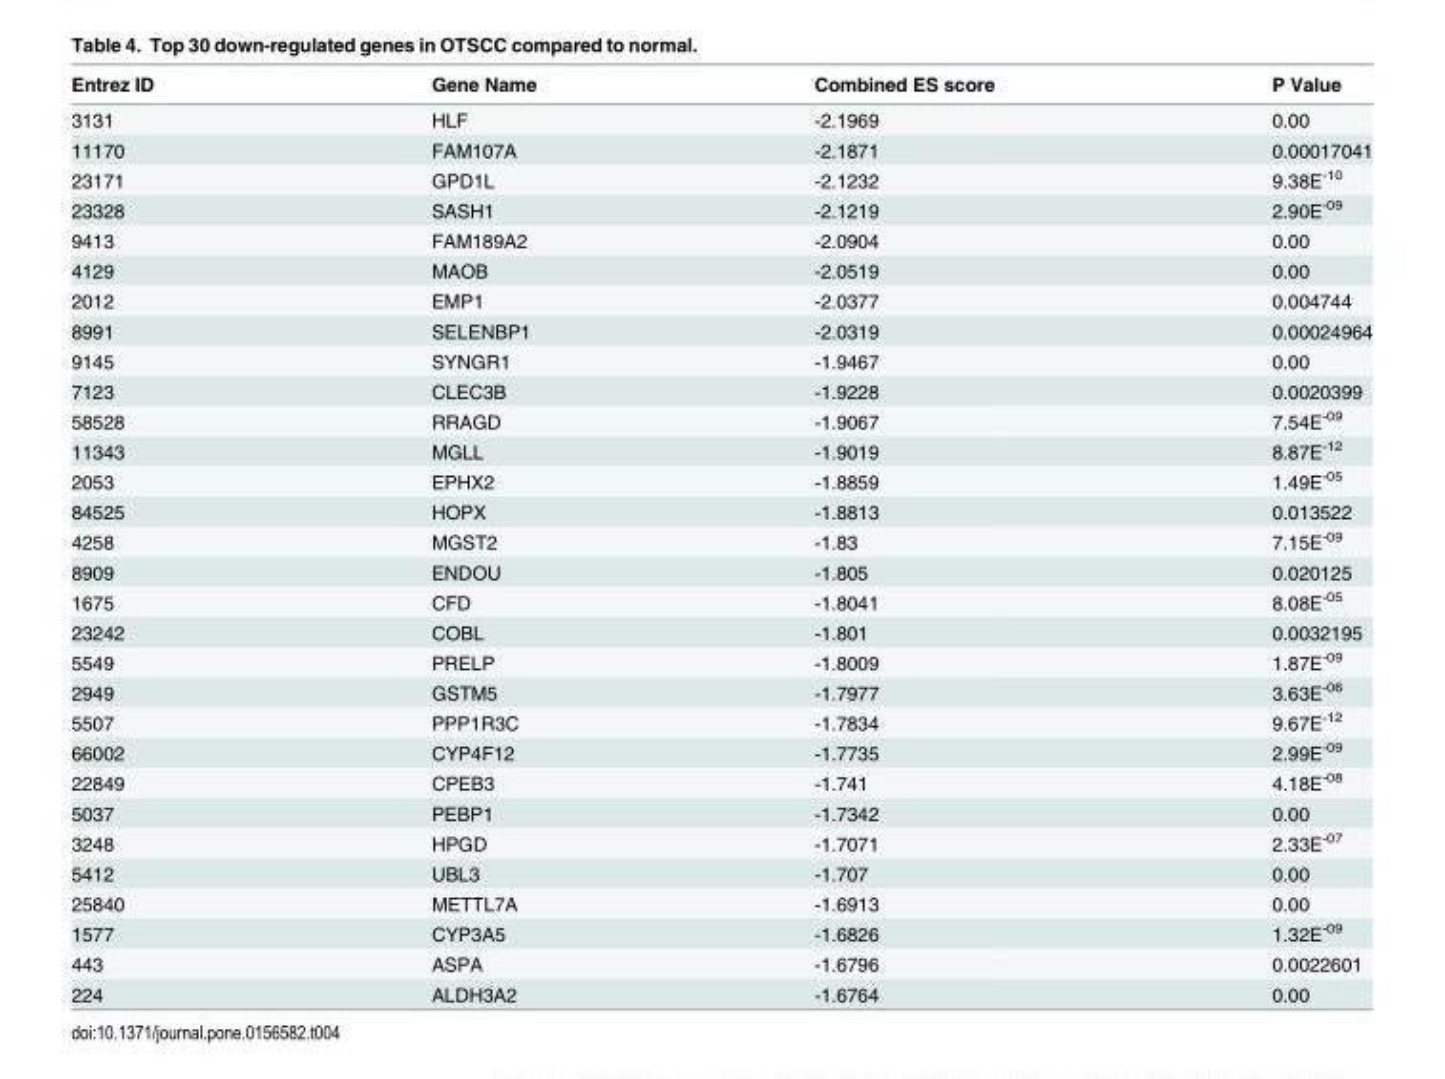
<table><thead><tr><td>Entrez ID</td><td>Gene Name</td><td>Combined ES score</td><td>P Value</td></tr></thead><tbody><tr><td>3131</td><td>HLF</td><td>-2.1969</td><td>0.00</td></tr><tr><td>11170</td><td>FAM107A</td><td>-2.1871</td><td>0.00017041</td></tr><tr><td>23171</td><td>GPD1L</td><td>-2.1232</td><td>9.38E<sup>-10</sup></td></tr><tr><td>23328</td><td>SASH1</td><td>-2.1219</td><td>2.90E<sup>-09</sup></td></tr><tr><td>9413</td><td>FAM189A2</td><td>-2.0904</td><td>0.00</td></tr><tr><td>4129</td><td>MAOB</td><td>-2.0519</td><td>0.00</td></tr><tr><td>2012</td><td>EMP1</td><td>-2.0377</td><td>0.004744</td></tr><tr><td>8991</td><td>SELENBP1</td><td>-2.0319</td><td>0.00024964</td></tr><tr><td>9145</td><td>SYNGR1</td><td>-1.9467</td><td>0.00</td></tr><tr><td>7123</td><td>CLEC3B</td><td>-1.9228</td><td>0.0020399</td></tr><tr><td>58528</td><td>RRAGD</td><td>-1.9067</td><td>7.54E<sup>-09</sup></td></tr><tr><td>11343</td><td>MGLL</td><td>-1.9019</td><td>8.87E<sup>-12</sup></td></tr><tr><td>2053</td><td>EPHX2</td><td>-1.8859</td><td>1.49E<sup>-05</sup></td></tr><tr><td>84525</td><td>HOPX</td><td>-1.8813</td><td>0.013522</td></tr><tr><td>4258</td><td>MGST2</td><td>-1.83</td><td>7.15E<sup>-09</sup></td></tr><tr><td>8909</td><td>ENDOU</td><td>-1.805</td><td>0.020125</td></tr><tr><td>1675</td><td>CFD</td><td>-1.8041</td><td>8.08E<sup>-05</sup></td></tr><tr><td>23242</td><td>COBL</td><td>-1.801</td><td>0.0032195</td></tr><tr><td>5549</td><td>PRELP</td><td>-1.8009</td><td>1.87E<sup>-09</sup></td></tr><tr><td>2949</td><td>GSTM5</td><td>-1.7977</td><td>3.63E<sup>-06</sup></td></tr><tr><td>5507</td><td>PPP1R3C</td><td>-1.7834</td><td>9.67E<sup>-12</sup></td></tr><tr><td>66002</td><td>CYP4F12</td><td>-1.7735</td><td>2.99E<sup>-09</sup></td></tr><tr><td>22849</td><td>CPEB3</td><td>-1.741</td><td>4.18E<sup>-08</sup></td></tr><tr><td>5037</td><td>PEBP1</td><td>-1.7342</td><td>0.00</td></tr><tr><td>3248</td><td>HPGD</td><td>-1.7071</td><td>2.33E<sup>-07</sup></td></tr><tr><td>5412</td><td>UBL3</td><td>-1.707</td><td>0.00</td></tr><tr><td>25840</td><td>METTL7A</td><td>-1.6913</td><td>0.00</td></tr><tr><td>1577</td><td>CYP3A5</td><td>-1.6826</td><td>1.32E<sup>-09</sup></td></tr><tr><td>443</td><td>ASPA</td><td>-1.6796</td><td>0.0022601</td></tr><tr><td>224</td><td>ALDH3A2</td><td>-1.6764</td><td>0.00</td></tr></tbody></table>